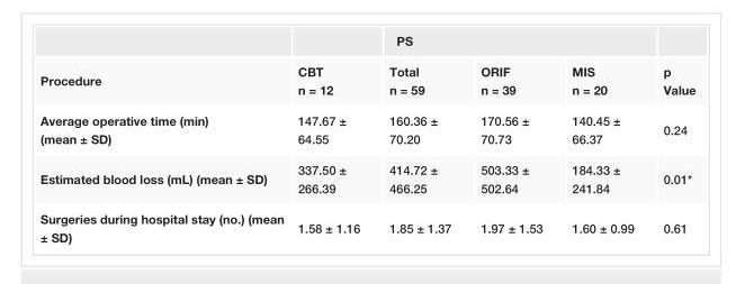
<table><thead><tr><td rowspan="2">Procedure</td><td rowspan="2">CBT n = 12</td><td colspan="3">PS</td><td rowspan="2">p Value</td></tr><tr><td>Total n = 59</td><td>ORIF n = 39</td><td>MIS n = 20</td></tr></thead><tbody><tr><td>Average operative time (min) (mean ± SD)</td><td>147.67 ± 64.55</td><td>160.36 ± 70.20</td><td>170.56 ± 70.73</td><td>140.45 ± 66.37</td><td>0.24</td></tr><tr><td>Estimated blood loss (mL) (mean ± SD)</td><td>337.50 ± 266.39</td><td>414.72 ± 466.25</td><td>503.33 ± 502.64</td><td>184.33 ± 241.84</td><td>0.01*</td></tr><tr><td>Surgeries during hospital stay (no.) (mean ± SD)</td><td>1.58 ± 1.16</td><td>1.85 ± 1.37</td><td>1.97 ± 1.53</td><td>1.60 ± 0.99</td><td>0.61</td></tr></tbody></table>